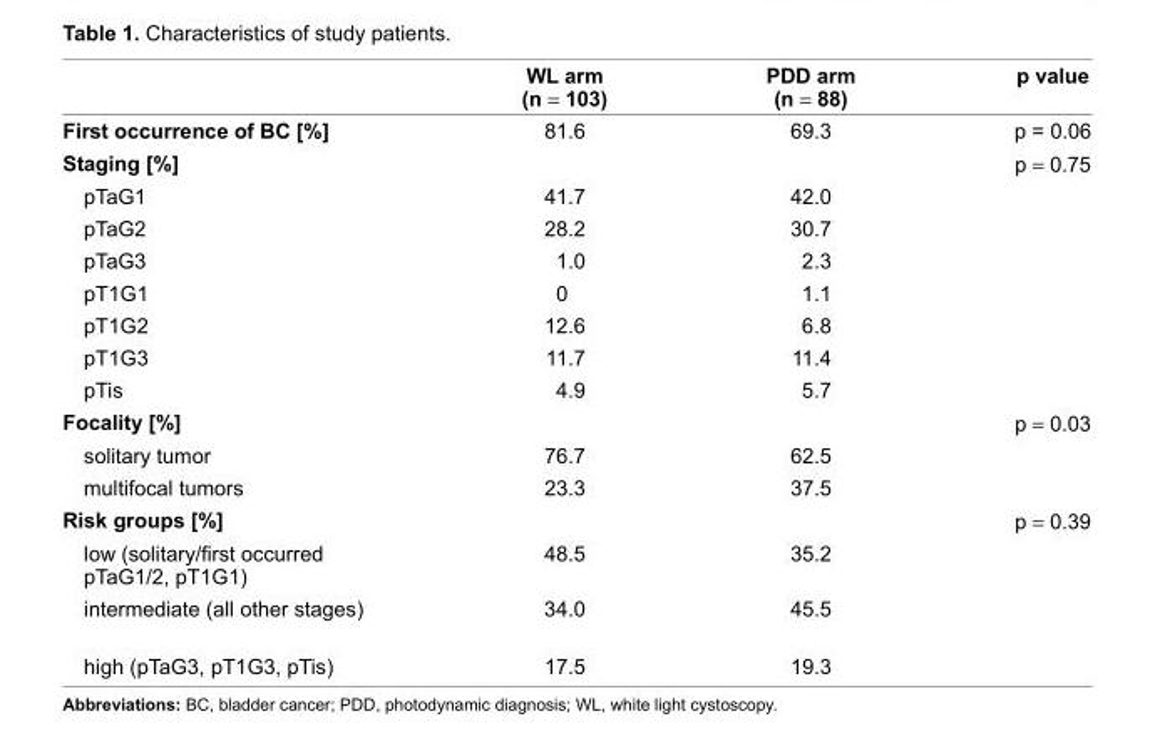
<table><thead><tr><td></td><td>WL arm (n = 103)</td><td>PDD arm (n = 88)</td><td>p value</td></tr></thead><tbody><tr><td>First occurrence of BC [%]</td><td>81.6</td><td>69.3</td><td>p = 0.06</td></tr><tr><td>Staging [%]</td><td></td><td></td><td>p = 0.75</td></tr><tr><td>pTaG1</td><td>41.7</td><td>42.0</td><td></td></tr><tr><td>pTaG2</td><td>28.2</td><td>30.7</td><td></td></tr><tr><td>pTaG3</td><td>1.0</td><td>2.3</td><td></td></tr><tr><td>pT1G1</td><td>0</td><td>1.1</td><td></td></tr><tr><td>pT1G2</td><td>12.6</td><td>6.8</td><td></td></tr><tr><td>pT1G3</td><td>11.7</td><td>11.4</td><td></td></tr><tr><td>pTis</td><td>4.9</td><td>5.7</td><td></td></tr><tr><td>Focality [%]</td><td></td><td></td><td>p = 0.03</td></tr><tr><td>solitary tumor</td><td>76.7</td><td>62.5</td><td></td></tr><tr><td>multifocal tumors</td><td>23.3</td><td>37.5</td><td></td></tr><tr><td>Risk groups [%]</td><td></td><td></td><td>p = 0.39</td></tr><tr><td>low (solitary/fi rst occurred pTaG1/2, pT1G1)</td><td>48.5</td><td>35.2</td><td></td></tr><tr><td>intermediate (all other stages)</td><td>34.0</td><td>45.5</td><td></td></tr><tr><td>high (pTaG3, pT1G3, pTis)</td><td>17.5</td><td>19.3</td><td></td></tr></tbody></table>